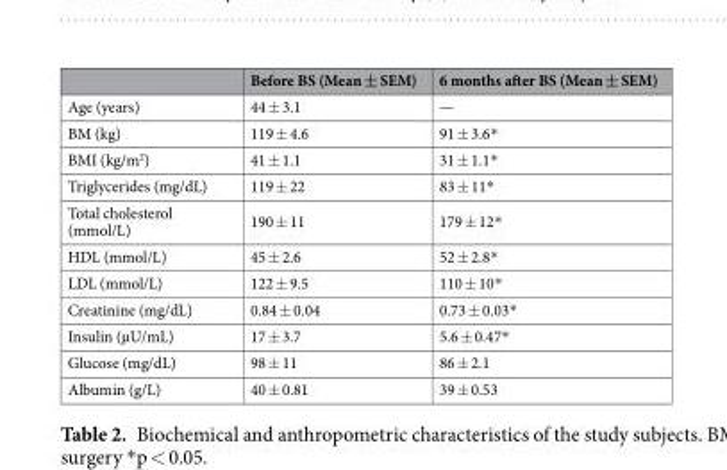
<table><thead><tr><td></td><td>Before BS (Mean ± SEM)</td><td>6 months after BS (Mean ± SEM)</td></tr></thead><tbody><tr><td>Age (years)</td><td>44 ± 3.1</td><td>—</td></tr><tr><td>BM (kg)</td><td>119 ± 4.6</td><td>91 ± 3.6*</td></tr><tr><td>BMI (kg/m<sup>2</sup>)</td><td>41 ± 1.1</td><td>31 ± 1.1*</td></tr><tr><td>Triglycerides (mg/dL)</td><td>119 ± 22</td><td>83 ± 11*</td></tr><tr><td>Total cholesterol (mmol/L)</td><td>190 ± 11</td><td>179 ± 12*</td></tr><tr><td>HDL (mmol/L)</td><td>45 ± 2.6</td><td>52 ± 2.8*</td></tr><tr><td>LDL (mmol/L)</td><td>122 ± 9.5</td><td>110 ± 10*</td></tr><tr><td>Creatinine (mg/dL)</td><td>0.84 ± 0.04</td><td>0.73 ± 0.03*</td></tr><tr><td>Insulin (µU/mL)</td><td>17 ± 3.7</td><td>5.6 ± 0.47*</td></tr><tr><td>Glucose (mg/dL)</td><td>98 ± 11</td><td>86 ± 2.1</td></tr><tr><td>Albumin (g/L)</td><td>40 ± 0.81</td><td>39 ± 0.53</td></tr></tbody></table>